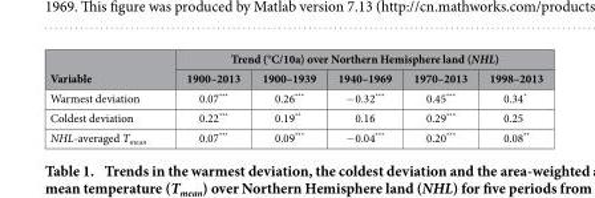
<table><thead><tr><td rowspan="2">Variable</td><td colspan="5">Trend (°C/10a) over Northern Hemisphere land (NHL)</td></tr><tr><td>1900–2013</td><td>1900–1939</td><td>1940–1969</td><td>1970–2013</td><td>1998–2013</td></tr></thead><tbody><tr><td>Warmest deviation</td><td>0.07***</td><td>0.26***</td><td>− 0.32***</td><td>0.45***</td><td>0.34*</td></tr><tr><td>Coldest deviation</td><td>0.22***</td><td>0.19**</td><td>0.16</td><td>0.29***</td><td>0.25</td></tr><tr><td>NHL-averaged T<sub>mean</sub></td><td>0.07***</td><td>0.09***</td><td>− 0.04***</td><td>0.20***</td><td>0.08**</td></tr></tbody></table>